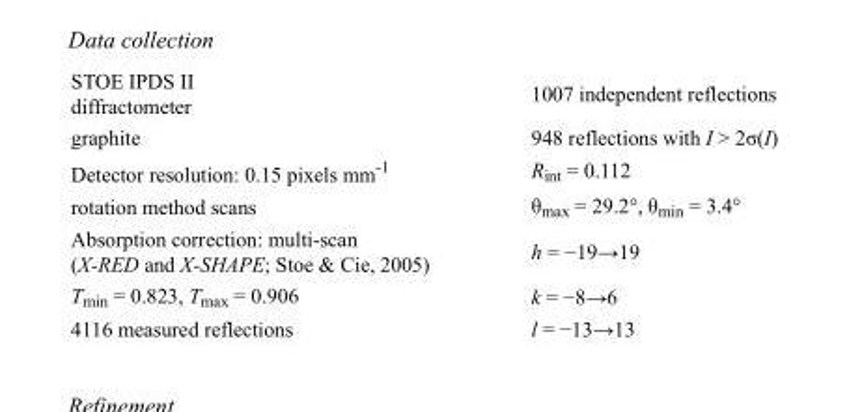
<table><tbody><tr><td>STOE IPDS II diffractometer</td><td>1007 independent reflections</td></tr><tr><td>graphite</td><td>948 reflections with I &gt; 2σ(I)</td></tr><tr><td>Detector resolution: 0.15 pixels mm<sup>-1</sup></td><td>R<sub>int</sub> = 0.112</td></tr><tr><td>rotation method scans</td><td>θ<sub>max</sub> = 29.2°, θ<sub>min</sub> = 3.4°</td></tr><tr><td>Absorption correction: multi-scan (X-RED and X-SHAPE; Stoe &amp; Cie, 2005)</td><td>h = −19→19</td></tr><tr><td>T<sub>min</sub> = 0.823, T<sub>max</sub> = 0.906</td><td>k = −8→6</td></tr><tr><td>4116 measured reflections</td><td>l = −13→13</td></tr></tbody></table>